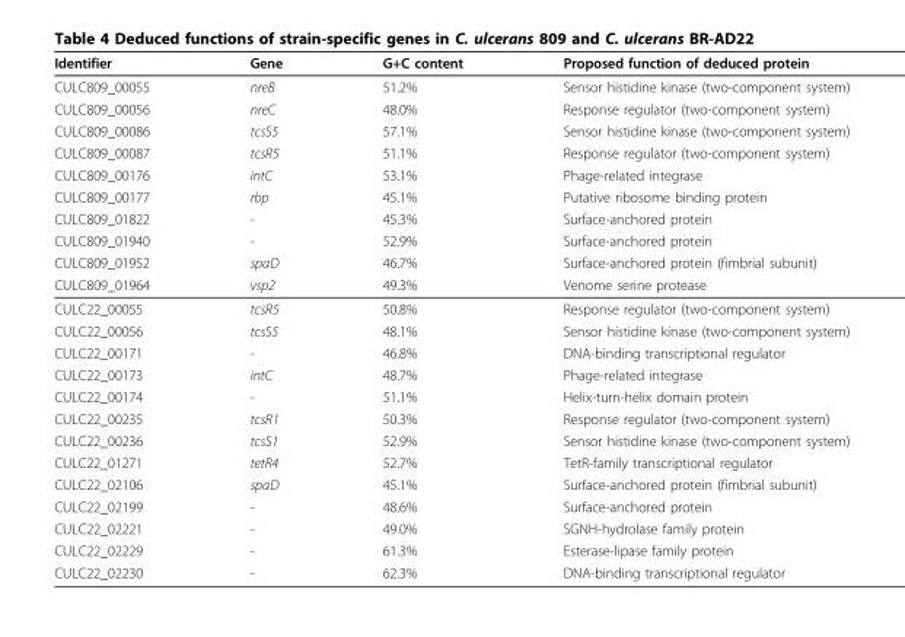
<table><thead><tr><td>Identifier</td><td>Gene</td><td>G+C content</td><td>Proposed function of deduced protein</td></tr></thead><tbody><tr><td>CULC809_00055</td><td>nreB</td><td>51.2%</td><td>Sensor histidine kinase (two-component system)</td></tr><tr><td>CULC809_00056</td><td>nreC</td><td>48.0%</td><td>Response regulator (two-component system)</td></tr><tr><td>CULC809_00086</td><td>tcsS5</td><td>57.1%</td><td>Sensor histidine kinase (two-component system)</td></tr><tr><td>CULC809_00087</td><td>tcsR5</td><td>51.1%</td><td>Response regulator (two-component system)</td></tr><tr><td>CULC809_00176</td><td>intC</td><td>53.1%</td><td>Phage-related integrase</td></tr><tr><td>CULC809_00177</td><td>rbp</td><td>45.1%</td><td>Putative ribosome binding protein</td></tr><tr><td>CULC809_01822</td><td>-</td><td>45.3%</td><td>Surface-anchored protein</td></tr><tr><td>CULC809_01940</td><td>-</td><td>52.9%</td><td>Surface-anchored protein</td></tr><tr><td>CULC809_01952</td><td>spaD</td><td>46.7%</td><td>Surface-anchored protein (fimbrial subunit)</td></tr><tr><td>CULC809_01964</td><td>vsp2</td><td>49.3%</td><td>Venome serine protease</td></tr><tr><td>CULC22_00055</td><td>tcsR5</td><td>50.8%</td><td>Response regulator (two-component system)</td></tr><tr><td>CULC22_00056</td><td>tcsS5</td><td>48.1%</td><td>Sensor histidine kinase (two-component system)</td></tr><tr><td>CULC22_00171</td><td>-</td><td>46.8%</td><td>DNA-binding transcriptional regulator</td></tr><tr><td>CULC22_00173</td><td>intC</td><td>48.7%</td><td>Phage-related integrase</td></tr><tr><td>CULC22_00174</td><td>-</td><td>51.1%</td><td>Helix-turn-helix domain protein</td></tr><tr><td>CULC22_00235</td><td>tcsR1</td><td>50.3%</td><td>Response regulator (two-component system)</td></tr><tr><td>CULC22_00236</td><td>tcsS1</td><td>52.9%</td><td>Sensor histidine kinase (two-component system)</td></tr><tr><td>CULC22_01271</td><td>tetR4</td><td>52.7%</td><td>TetR-family transcriptional regulator</td></tr><tr><td>CULC22_02106</td><td>spaD</td><td>45.1%</td><td>Surface-anchored protein (fimbrial subunit)</td></tr><tr><td>CULC22_02199</td><td>-</td><td>48.6%</td><td>Surface-anchored protein</td></tr><tr><td>CULC22_02221</td><td>-</td><td>49.0%</td><td>SGNH-hydrolase family protein</td></tr><tr><td>CULC22_02229</td><td>-</td><td>61.3%</td><td>Esterase-lipase family protein</td></tr><tr><td>CULC22_02230</td><td>-</td><td>62.3%</td><td>DNA-binding transcriptional regulator</td></tr></tbody></table>